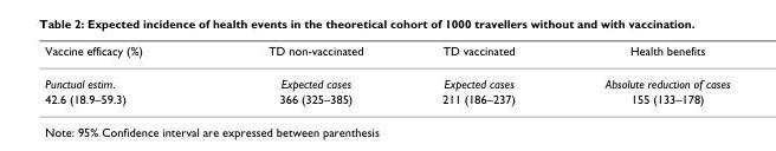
<table><thead><tr><td>Vaccine efficacy (%)</td><td>TD non-vaccinated</td><td>TD vaccinated</td><td>Health benefits</td></tr></thead><tbody><tr><td>Punctual estim.</td><td>Expected cases</td><td>Expected cases</td><td>Absolute reduction of cases</td></tr><tr><td>42.6 (18.9–59.3)</td><td>366 (325–385)</td><td>211 (186–237)</td><td>155 (133–178)</td></tr></tbody></table>